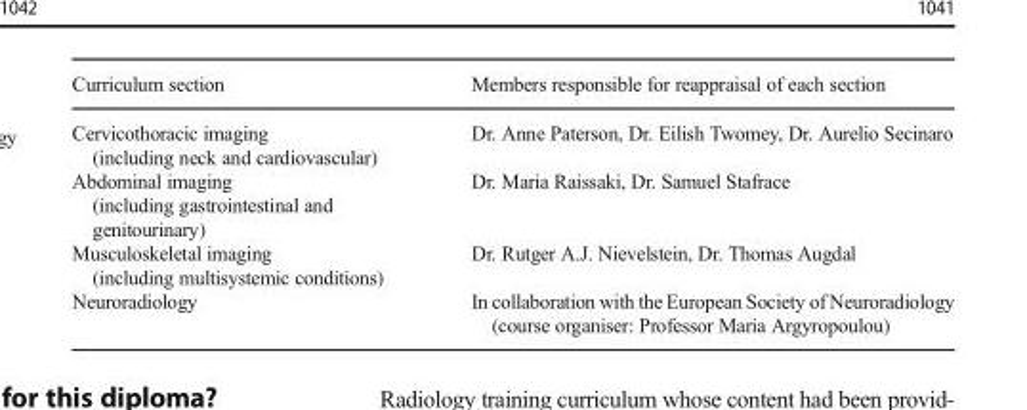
<table><thead><tr><td>Curriculum section</td><td>Members responsible for reappraisal of each section</td></tr></thead><tbody><tr><td>Cervicothoracic imaging (including neck and cardiovascular)</td><td>Dr. Anne Paterson, Dr. Eilish Twomey, Dr. Aurelio Secinaro</td></tr><tr><td>Abdominal imaging (including gastrointestinal and genitourinary)</td><td>Dr. Maria Raissaki, Dr. Samuel Stafrace</td></tr><tr><td>Musculoskeletal imaging (including multisystemic conditions)</td><td>Dr. Rutger A.J. Nievelstein, Dr. Thomas Augdal</td></tr><tr><td>Neuroradiology</td><td>In collaboration with the European Society of Neuroradiology (course organiser: Professor Maria Argyropoulou)</td></tr></tbody></table>